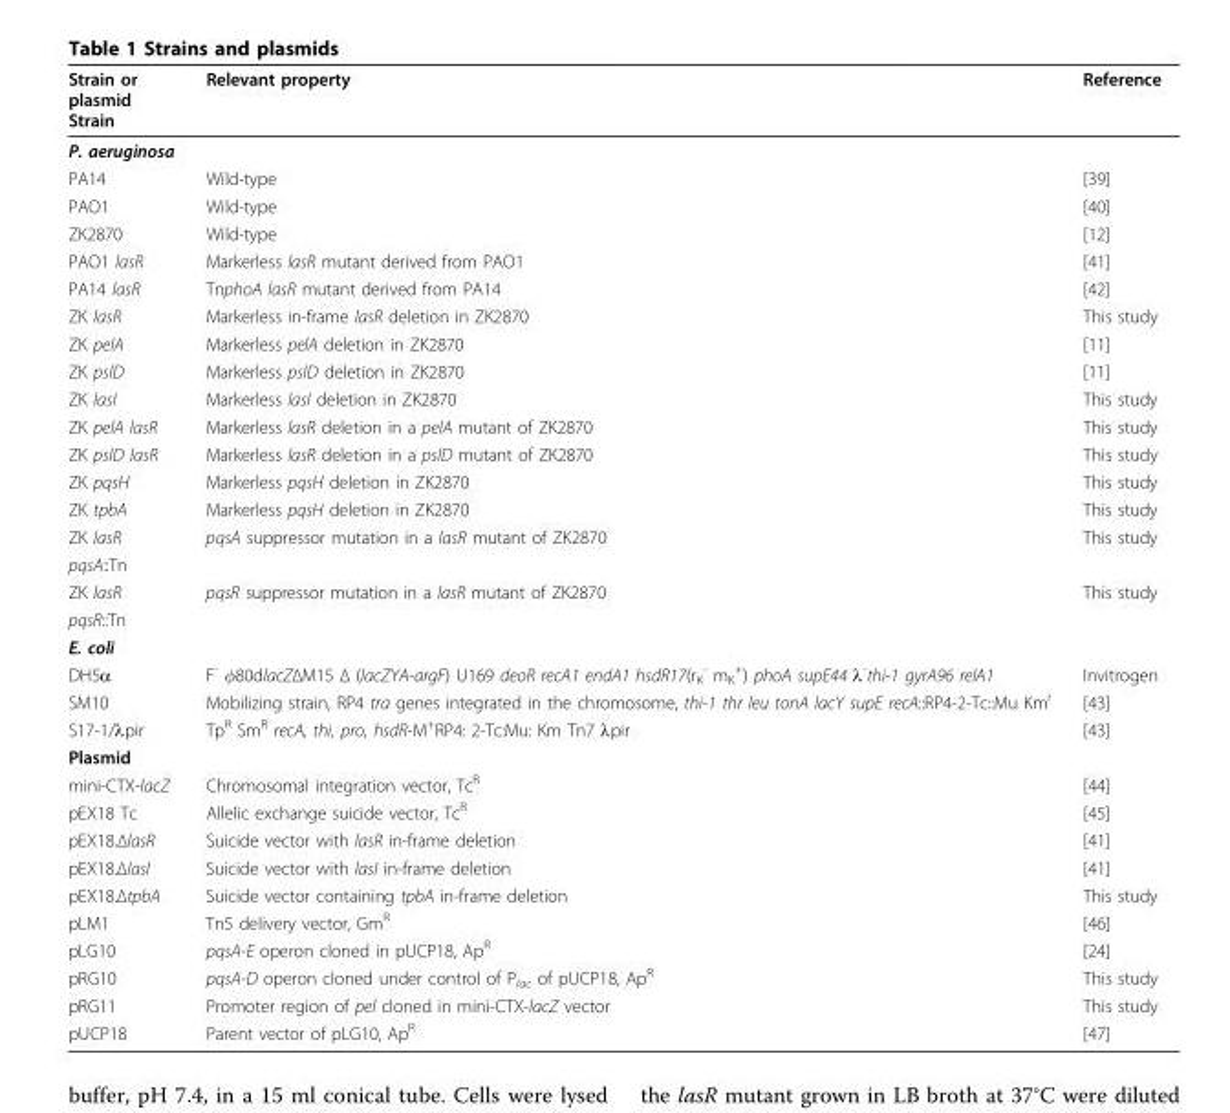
<table><thead><tr><td>Strain or plasmid Strain</td><td>Relevant property</td><td>Reference</td></tr></thead><tbody><tr><td colspan="3">P. aeruginosa</td></tr><tr><td>PA14</td><td>Wild-type</td><td>[39]</td></tr><tr><td>PAO1</td><td>Wild-type</td><td>[40]</td></tr><tr><td>ZK2870</td><td>Wild-type</td><td>[12]</td></tr><tr><td>PAO1 lasR</td><td>Markerless lasR mutant derived from PAO1</td><td>[41]</td></tr><tr><td>PA14 lasR</td><td>TnphoA lasR mutant derived from PA14</td><td>[42]</td></tr><tr><td>ZK lasR</td><td>Markerless in-frame lasR deletion in ZK2870</td><td>This study</td></tr><tr><td>ZK pelA</td><td>Markerless pelA deletion in ZK2870</td><td>[11]</td></tr><tr><td>ZK pslD</td><td>Markerless pslD deletion in ZK2870</td><td>[11]</td></tr><tr><td>ZK lasI</td><td>Markerless lasI deletion in ZK2870</td><td>This study</td></tr><tr><td>ZK pelA lasR</td><td>Markerless lasR deletion in a pelA mutant of ZK2870</td><td>This study</td></tr><tr><td>ZK pslD lasR</td><td>Markerless lasR deletion in a pslD mutant of ZK2870</td><td>This study</td></tr><tr><td>ZK pqsH</td><td>Markerless pqsH deletion in ZK2870</td><td>This study</td></tr><tr><td>ZK tpbA</td><td>Markerless pqsH deletion in ZK2870</td><td>This study</td></tr><tr><td>ZK lasR</td><td>pqsA suppressor mutation in a lasR mutant of ZK2870</td><td>This study</td></tr><tr><td colspan="3">pqsA::Tn</td></tr><tr><td>ZK lasR</td><td>pqsR suppressor mutation in a lasR mutant of ZK2870</td><td>This study</td></tr><tr><td colspan="3">pqsR::Tn</td></tr><tr><td colspan="3">E. coli</td></tr><tr><td>DH5α</td><td>F<sup>-</sup> φ80dlacZΔM15 Δ (lacZYA-argF) U169 deoR recA1 endA1 hsdR17(r<sub>K</sub> <sup>-</sup> m<sub>K</sub> <sup>+</sup>) phoA supE44 λ<sup>-</sup>thi-1 gyrA96 relA1</td><td>Invitrogen</td></tr><tr><td>SM10</td><td>Mobilizing strain, RP4 tra genes integrated in the chromosome, thi-1 thr leu tonA lacY supE recA::RP4-2-Tc::Mu Km<sup>r</sup></td><td>[43]</td></tr><tr><td>S17-1/λpir</td><td>Tp<sup>R</sup> Sm<sup>R</sup> recA, thi, pro, hsdR-M<sup>+</sup>RP4: 2-Tc:Mu: Km Tn7 λpir</td><td>[43]</td></tr><tr><td colspan="3">Plasmid</td></tr><tr><td>mini-CTX-lacZ</td><td>Chromosomal integration vector, Tc<sup>R</sup></td><td>[44]</td></tr><tr><td>pEX18 Tc</td><td>Allelic exchange suicide vector, Tc<sup>R</sup></td><td>[45]</td></tr><tr><td>pEX18.ΔlasR</td><td>Suicide vector with lasR in-frame deletion</td><td>[41]</td></tr><tr><td>pEX18.ΔlasI</td><td>Suicide vector with lasI in-frame deletion</td><td>[41]</td></tr><tr><td>pEX18.ΔtpbA</td><td>Suicide vector containing tpbA in-frame deletion</td><td>This study</td></tr><tr><td>pLM1</td><td>Tn5 delivery vector, Gm<sup>R</sup></td><td>[46]</td></tr><tr><td>pLG10</td><td>pqsA-E operon cloned in pUCP18, Ap<sup>R</sup></td><td>[24]</td></tr><tr><td>pRG10</td><td>pqsA-D operon cloned under control of P<sub>lac</sub> of pUCP18, Ap<sup>R</sup></td><td>This study</td></tr><tr><td>pRG11</td><td>Promoter region of pel cloned in mini-CTX-lacZ vector</td><td>This study</td></tr><tr><td>pUCP18</td><td>Parent vector of pLG10, Ap<sup>R</sup></td><td>[47]</td></tr></tbody></table>